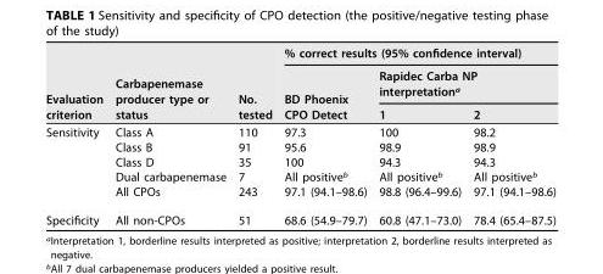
<table><thead><tr><td rowspan="3">Evaluation criterion</td><td rowspan="3">Carbapenemase producer type or status</td><td rowspan="3">No. tested</td><td colspan="3">% correct results (95% confidence interval)</td></tr><tr><td rowspan="2">BD Phoenix CPO Detect</td><td colspan="2">Rapidec Carba NP interpretation<sup>a</sup></td></tr><tr><td>1</td><td>2</td></tr></thead><tbody><tr><td rowspan="5">Sensitivity</td><td>Class A</td><td>110</td><td>97.3</td><td>100</td><td>98.2</td></tr><tr><td>Class B</td><td>91</td><td>95.6</td><td>98.9</td><td>98.9</td></tr><tr><td>Class D</td><td>35</td><td>100</td><td>94.3</td><td>94.3</td></tr><tr><td>Dual carbapenemase</td><td>7</td><td>All positive<sup>b</sup></td><td>All positive<sup>b</sup></td><td>All positive<sup>b</sup></td></tr><tr><td>All CPOs</td><td>243</td><td>97.1 (94.1–98.6)</td><td>98.8 (96.4–99.6)</td><td>97.1 (94.1–98.6)</td></tr><tr><td>Specificity</td><td>All non-CPOs</td><td>51</td><td>68.6 (54.9–79.7)</td><td>60.8 (47.1–73.0)</td><td>78.4 (65.4–87.5)</td></tr></tbody></table>